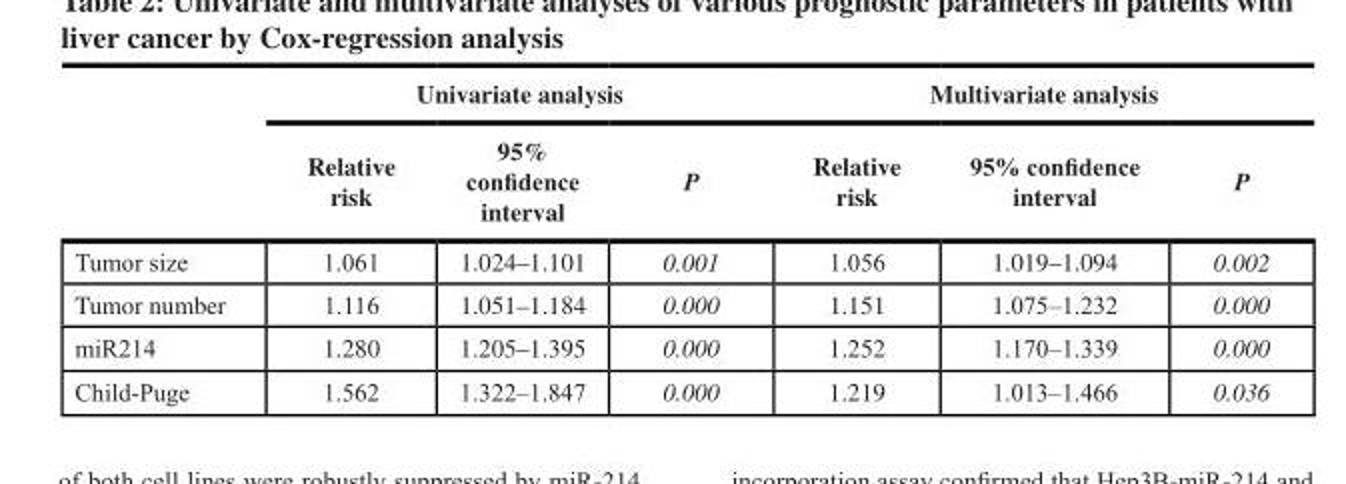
<table><thead><tr><td rowspan="2"></td><td colspan="3">Univariate analysis</td><td colspan="3">Multivariate analysis</td></tr><tr><td>Relative risk</td><td>95% confidence interval</td><td>P</td><td>Relative risk</td><td>95% confidence interval</td><td>P</td></tr></thead><tbody><tr><td>Tumor size</td><td>1.061</td><td>1.024–1.101</td><td>0.001</td><td>1.056</td><td>1.019–1.094</td><td>0.002</td></tr><tr><td>Tumor number</td><td>1.116</td><td>1.051–1.184</td><td>0.000</td><td>1.151</td><td>1.075–1.232</td><td>0.000</td></tr><tr><td>miR214</td><td>1.280</td><td>1.205–1.395</td><td>0.000</td><td>1.252</td><td>1.170–1.339</td><td>0.000</td></tr><tr><td>Child-Puge</td><td>1.562</td><td>1.322–1.847</td><td>0.000</td><td>1.219</td><td>1.013–1.466</td><td>0.036</td></tr></tbody></table>